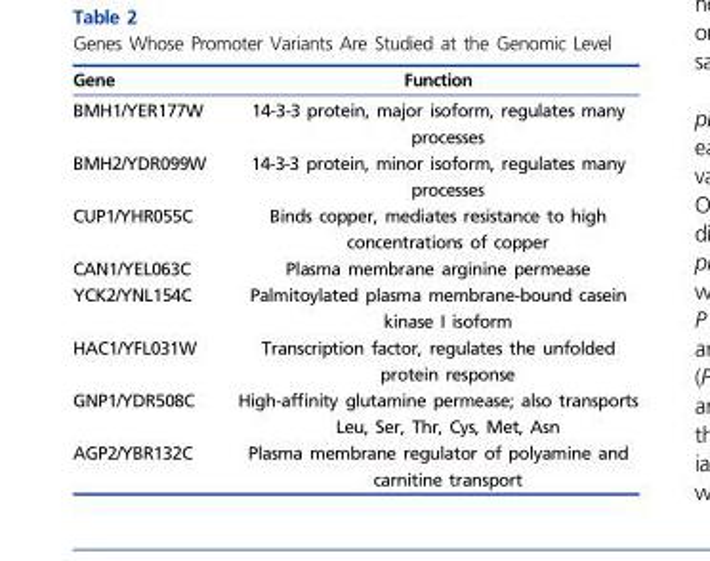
<table><thead><tr><td>Gene</td><td>Function</td></tr></thead><tbody><tr><td>BMH1/YER177W</td><td>14-3-3 protein, major isoform, regulates many processes</td></tr><tr><td>BMH2/YDR099W</td><td>14-3-3 protein, minor isoform, regulates many processes</td></tr><tr><td>CUP1/YHR055C</td><td>Binds copper, mediates resistance to high concentrations of copper</td></tr><tr><td>CAN1/YEL063C</td><td>Plasma membrane arginine permease</td></tr><tr><td>YCK2/YNL154C</td><td>Palmitoylated plasma membrane-bound casein kinase I isoform</td></tr><tr><td>HAC1/YFL031W</td><td>Transcription factor, regulates the unfolded protein response</td></tr><tr><td>GNP1/YDR508C</td><td>High-affinity glutamine permease; also transports Leu, Ser, Thr, Cys, Met, Asn</td></tr><tr><td>AGP2/YBR132C</td><td>Plasma membrane regulator of polyamine and carnitine transport</td></tr></tbody></table>